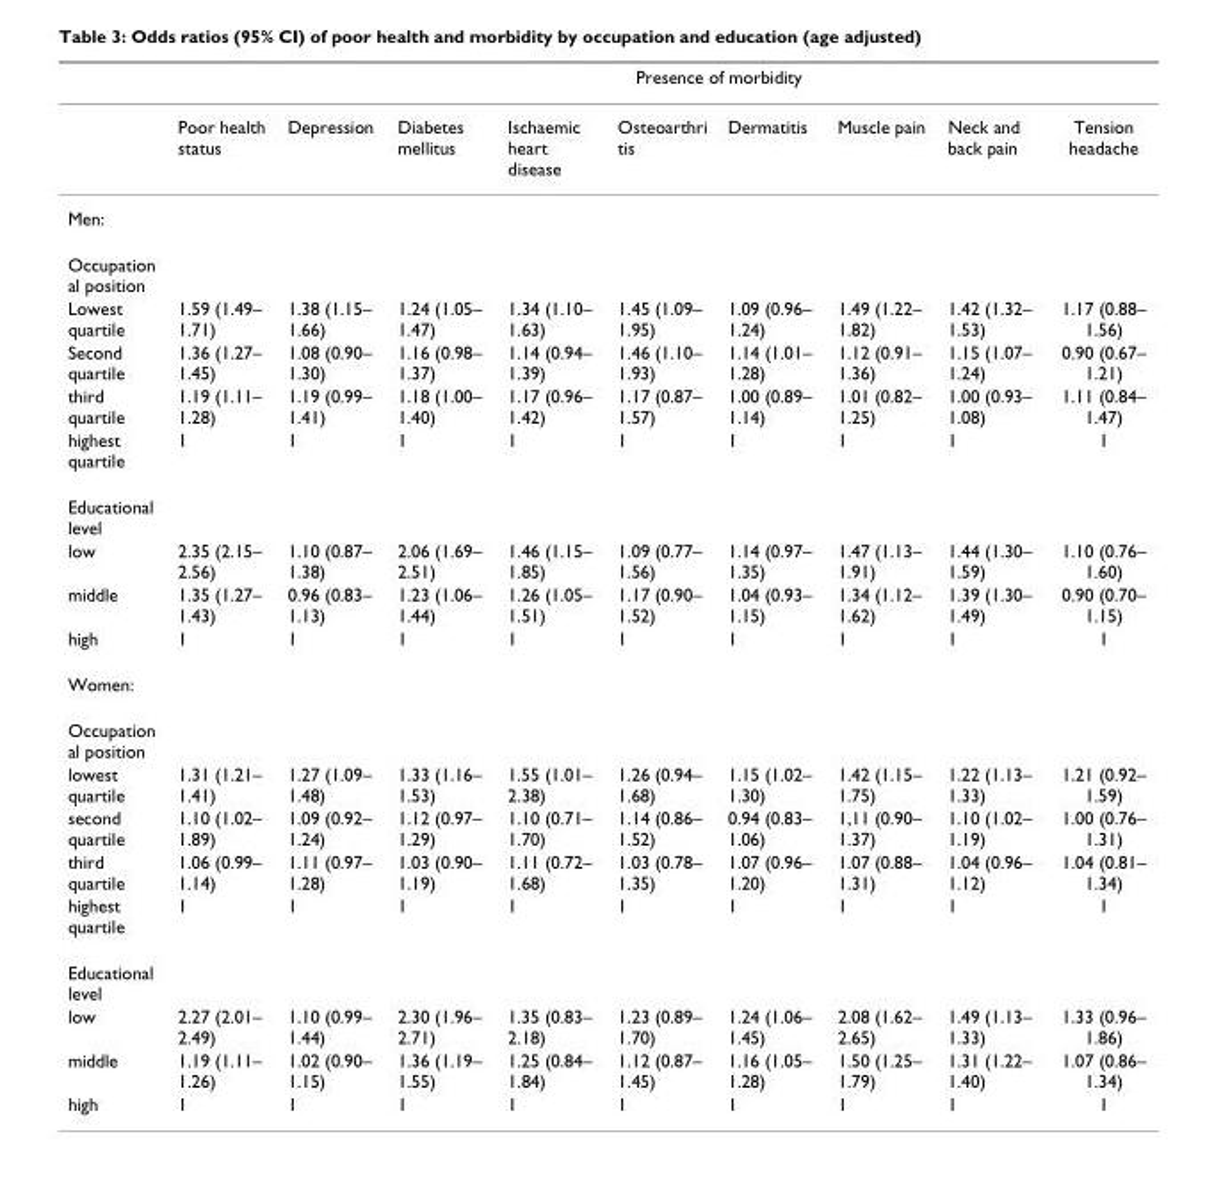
<table><thead><tr><td rowspan="2"></td><td rowspan="2">Poor health status</td><td colspan="8">Presence of morbidity</td></tr><tr><td>Depression</td><td>Diabetes mellitus</td><td>Ischaemic heart disease</td><td>Osteoarthri tis</td><td>Dermatitis</td><td>Muscle pain</td><td>Neck and back pain</td><td>Tension headache</td></tr></thead><tbody><tr><td colspan="10">Men:</td></tr><tr><td colspan="10">Occupation al position</td></tr><tr><td>Lowest quartile</td><td>1.59 (1.49– 1.71)</td><td>1.38 (1.15– 1.66)</td><td>1.24 (1.05– 1.47)</td><td>1.34 (1.10– 1.63)</td><td>1.45 (1.09– 1.95)</td><td>1.09 (0.96– 1.24)</td><td>1.49 (1.22– 1.82)</td><td>1.42 (1.32– 1.53)</td><td>1.17 (0.88– 1.56)</td></tr><tr><td>Second quartile</td><td>1.36 (1.27– 1.45)</td><td>1.08 (0.90– 1.30)</td><td>1.16 (0.98– 1.37)</td><td>1.14 (0.94– 1.39)</td><td>1.46 (1.10– 1.93)</td><td>1.14 (1.01– 1.28)</td><td>1.12 (0.91– 1.36)</td><td>1.15 (1.07– 1.24)</td><td>0.90 (0.67– 1.21)</td></tr><tr><td>third quartile</td><td>1.19 (1.11– 1.28)</td><td>1.19 (0.99– 1.41)</td><td>1.18 (1.00– 1.40)</td><td>1.17 (0.96– 1.42)</td><td>1.17 (0.87– 1.57)</td><td>1.00 (0.89– 1.14)</td><td>1.01 (0.82– 1.25)</td><td>1.00 (0.93– 1.08)</td><td>1.11 (0.84– 1.47)</td></tr><tr><td>highest quartile</td><td>1</td><td>1</td><td>1</td><td>1</td><td>1</td><td>1</td><td>1</td><td>1</td><td>1</td></tr><tr><td colspan="10">Educational level</td></tr><tr><td>low</td><td>2.35 (2.15– 2.56)</td><td>1.10 (0.87– 1.38)</td><td>2.06 (1.69– 2.51)</td><td>1.46 (1.15– 1.85)</td><td>1.09 (0.77– 1.56)</td><td>1.14 (0.97– 1.35)</td><td>1.47 (1.13– 1.91)</td><td>1.44 (1.30– 1.59)</td><td>1.10 (0.76– 1.60)</td></tr><tr><td>middle</td><td>1.35 (1.27– 1.43)</td><td>0.96 (0.83– 1.13)</td><td>1.23 (1.06– 1.44)</td><td>1.26 (1.05– 1.51)</td><td>1.17 (0.90– 1.52)</td><td>1.04 (0.93– 1.15)</td><td>1.34 (1.12– 1.62)</td><td>1.39 (1.30– 1.49)</td><td>0.90 (0.70– 1.15)</td></tr><tr><td>high</td><td>1</td><td>1</td><td>1</td><td>1</td><td>1</td><td>1</td><td>1</td><td>1</td><td>1</td></tr><tr><td colspan="10">Women:</td></tr><tr><td colspan="10">Occupation al position</td></tr><tr><td>lowest quartile</td><td>1.31 (1.21– 1.41)</td><td>1.27 (1.09– 1.48)</td><td>1.33 (1.16– 1.53)</td><td>1.55 (1.01– 2.38)</td><td>1.26 (0.94– 1.68)</td><td>1.15 (1.02– 1.30)</td><td>1.42 (1.15– 1.75)</td><td>1.22 (1.13– 1.33)</td><td>1.21 (0.92– 1.59)</td></tr><tr><td>second quartile</td><td>1.10 (1.02– 1.89)</td><td>1.09 (0.92– 1.24)</td><td>1.12 (0.97– 1.29)</td><td>1.10 (0.71– 1.70)</td><td>1.14 (0.86– 1.52)</td><td>0.94 (0.83– 1.06)</td><td>1,11 (0.90– 1.37)</td><td>1.10 (1.02– 1.19)</td><td>1.00 (0.76– 1.31)</td></tr><tr><td>third quartile</td><td>1.06 (0.99– 1.14)</td><td>1.11 (0.97– 1.28)</td><td>1.03 (0.90– 1.19)</td><td>1.11 (0.72– 1.68)</td><td>1.03 (0.78– 1.35)</td><td>1.07 (0.96– 1.20)</td><td>1.07 (0.88– 1.31)</td><td>1.04 (0.96– 1.12)</td><td>1.04 (0.81– 1.34)</td></tr><tr><td>highest quartile</td><td>1</td><td>1</td><td>1</td><td>1</td><td>1</td><td>1</td><td>1</td><td>1</td><td>1</td></tr><tr><td colspan="10">Educational level</td></tr><tr><td>low</td><td>2.27 (2.01– 2.49)</td><td>1.10 (0.99– 1.44)</td><td>2.30 (1.96– 2.71)</td><td>1.35 (0.83– 2.18)</td><td>1.23 (0.89– 1.70)</td><td>1.24 (1.06– 1.45)</td><td>2.08 (1.62– 2.65)</td><td>1.49 (1.13– 1.33)</td><td>1.33 (0.96– 1.86)</td></tr><tr><td>middle</td><td>1.19 (1.11– 1.26)</td><td>1.02 (0.90– 1.15)</td><td>1.36 (1.19– 1.55)</td><td>1.25 (0.84– 1.84)</td><td>1.12 (0.87– 1.45)</td><td>1.16 (1.05– 1.28)</td><td>1.50 (1.25– 1.79)</td><td>1.31 (1.22– 1.40)</td><td>1.07 (0.86– 1.34)</td></tr><tr><td>high</td><td>1</td><td>1</td><td>1</td><td>1</td><td>1</td><td>1</td><td>1</td><td>1</td><td>1</td></tr></tbody></table>